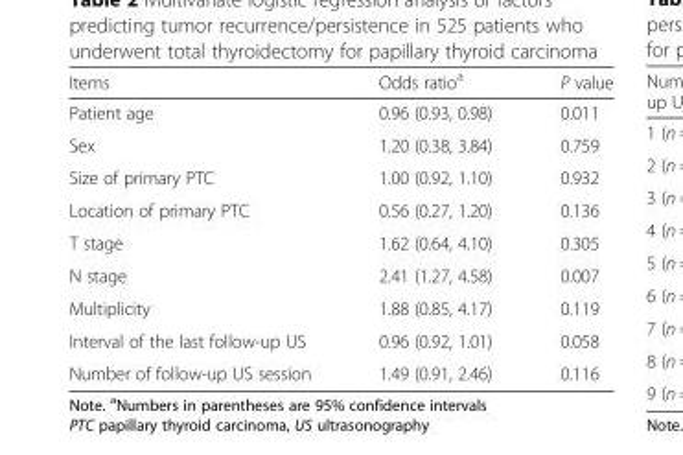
<table><thead><tr><td>Items</td><td>Odds ratio<sup>a</sup></td><td>P value</td></tr></thead><tbody><tr><td>Patient age</td><td>0.96 (0.93, 0.98)</td><td>0.011</td></tr><tr><td>Sex</td><td>1.20 (0.38, 3.84)</td><td>0.759</td></tr><tr><td>Size of primary PTC</td><td>1.00 (0.92, 1.10)</td><td>0.932</td></tr><tr><td>Location of primary PTC</td><td>0.56 (0.27, 1.20)</td><td>0.136</td></tr><tr><td>T stage</td><td>1.62 (0.64, 4.10)</td><td>0.305</td></tr><tr><td>N stage</td><td>2.41 (1.27, 4.58)</td><td>0.007</td></tr><tr><td>Multiplicity</td><td>1.88 (0.85, 4.17)</td><td>0.119</td></tr><tr><td>Interval of the last follow-up US</td><td>0.96 (0.92, 1.01)</td><td>0.058</td></tr><tr><td>Number of follow-up US session</td><td>1.49 (0.91, 2.46)</td><td>0.116</td></tr></tbody></table>